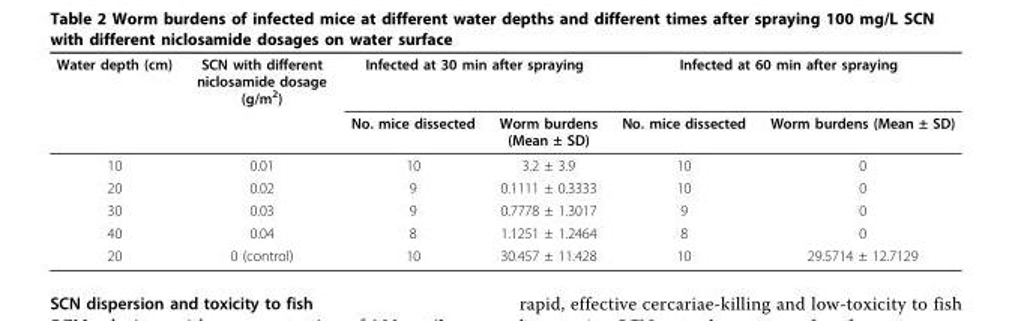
<table><thead><tr><td rowspan="2">Water depth (cm)</td><td rowspan="2">SCN with different niclosamide dosage (g/m<sup>2</sup>)</td><td colspan="2">Infected at 30 min after spraying</td><td colspan="2">Infected at 60 min after spraying</td></tr><tr><td>No. mice dissected</td><td>Worm burdens (Mean ± SD)</td><td>No. mice dissected</td><td>Worm burdens (Mean ± SD)</td></tr></thead><tbody><tr><td>10</td><td>0.01</td><td>10</td><td>3.2 ± 3.9</td><td>10</td><td>0</td></tr><tr><td>20</td><td>0.02</td><td>9</td><td>0.1111 ± 0.3333</td><td>10</td><td>0</td></tr><tr><td>30</td><td>0.03</td><td>9</td><td>0.7778 ± 1.3017</td><td>9</td><td>0</td></tr><tr><td>40</td><td>0.04</td><td>8</td><td>1.1251 ± 1.2464</td><td>8</td><td>0</td></tr><tr><td>20</td><td>0 (control)</td><td>10</td><td>30.457 ± 11.428</td><td>10</td><td>29.5714 ± 12.7129</td></tr></tbody></table>